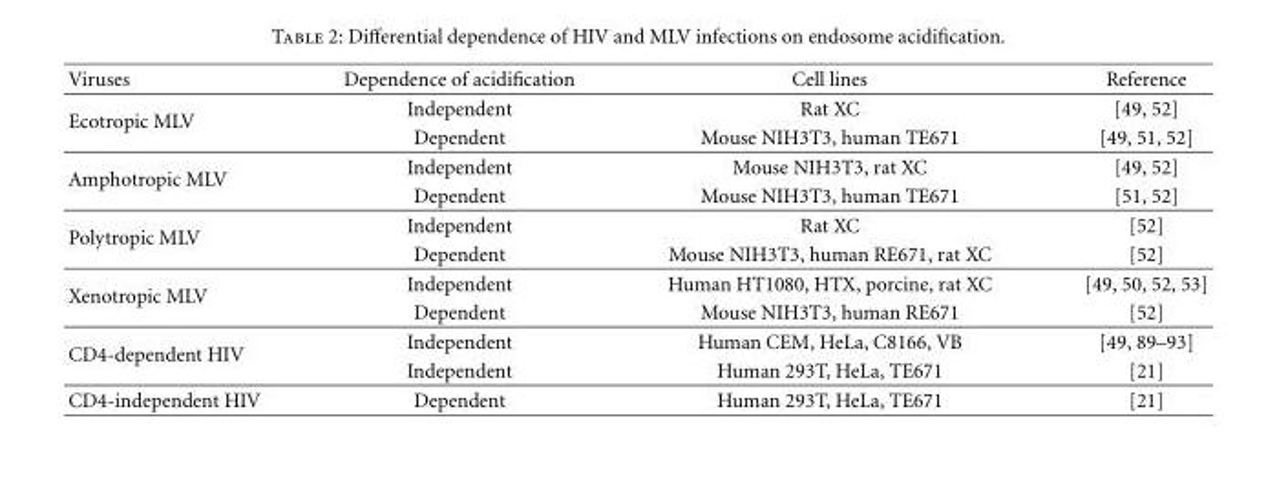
<table><thead><tr><td>Viruses</td><td>Dependence of acidification</td><td>Cell lines</td><td>Reference</td></tr></thead><tbody><tr><td rowspan="2">Ecotropic MLV</td><td>Independent</td><td>Rat XC</td><td>[49, 52]</td></tr><tr><td>Dependent</td><td>Mouse NIH3T3, human TE671</td><td>[49, 51, 52]</td></tr><tr><td rowspan="2">Amphotropic MLV</td><td>Independent</td><td>Mouse NIH3T3, rat XC</td><td>[49, 52]</td></tr><tr><td>Dependent</td><td>Mouse NIH3T3, human TE671</td><td>[51, 52]</td></tr><tr><td rowspan="2">Polytropic MLV</td><td>Independent</td><td>Rat XC</td><td>[52]</td></tr><tr><td>Dependent</td><td>Mouse NIH3T3, human RE671, rat XC</td><td>[52]</td></tr><tr><td rowspan="2">Xenotropic MLV</td><td>Independent</td><td>Human HT1080, HTX, porcine, rat XC</td><td>[49, 50, 52, 53]</td></tr><tr><td>Dependent</td><td>Mouse NIH3T3, human RE671</td><td>[52]</td></tr><tr><td rowspan="2">CD4-dependent HIV</td><td>Independent</td><td>Human CEM, HeLa, C8166, VB</td><td>[49, 89–93]</td></tr><tr><td>Independent</td><td>Human 293T, HeLa, TE671</td><td>[21]</td></tr><tr><td>CD4-independent HIV</td><td>Dependent</td><td>Human 293T, HeLa, TE671</td><td>[21]</td></tr></tbody></table>